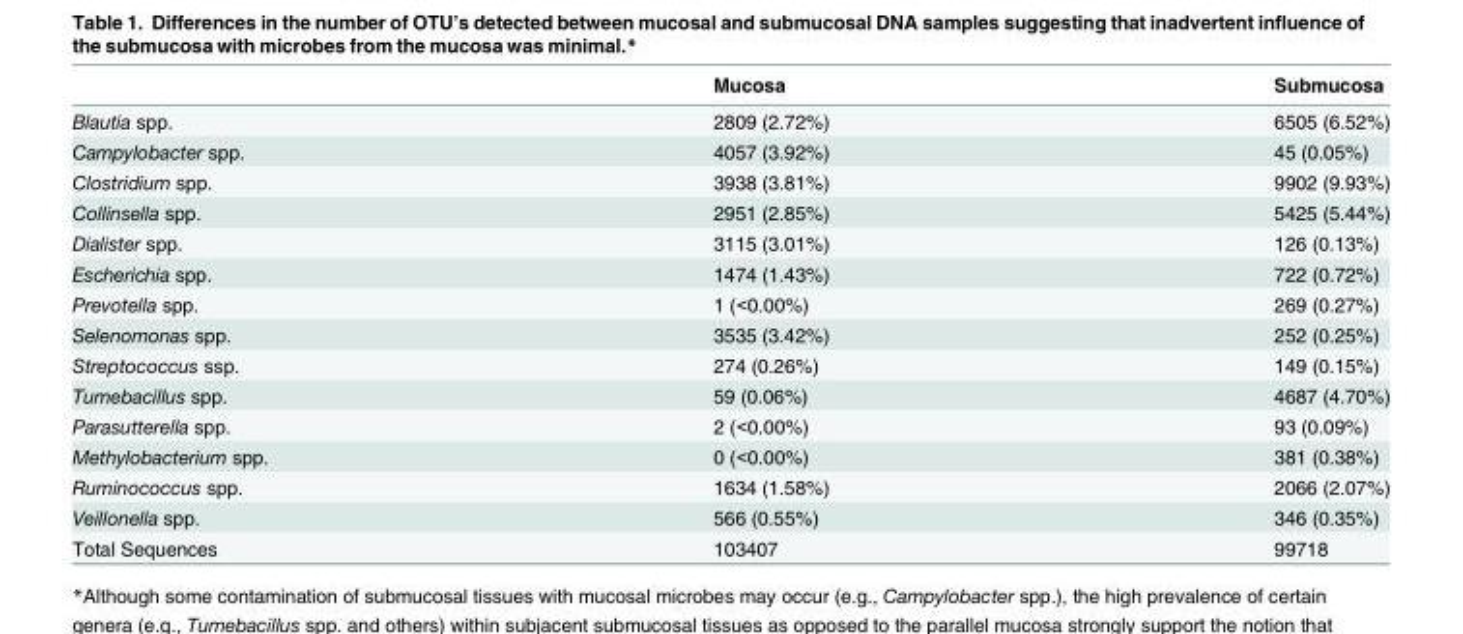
<table><thead><tr><td></td><td>Mucosa</td><td>Submucosa</td></tr></thead><tbody><tr><td>Blautia spp.</td><td>2809 (2.72%)</td><td>6505 (6.52%)</td></tr><tr><td>Campylobacter spp.</td><td>4057 (3.92%)</td><td>45 (0.05%)</td></tr><tr><td>Clostridium spp.</td><td>3938 (3.81%)</td><td>9902 (9.93%)</td></tr><tr><td>Collinsella spp.</td><td>2951 (2.85%)</td><td>5425 (5.44%)</td></tr><tr><td>Dialister spp.</td><td>3115 (3.01%)</td><td>126 (0.13%)</td></tr><tr><td>Escherichia spp.</td><td>1474 (1.43%)</td><td>722 (0.72%)</td></tr><tr><td>Prevotella spp.</td><td>1 (&lt;0.00%)</td><td>269 (0.27%)</td></tr><tr><td>Selenomonas spp.</td><td>3535 (3.42%)</td><td>252 (0.25%)</td></tr><tr><td>Streptococcus ssp.</td><td>274 (0.26%)</td><td>149 (0.15%)</td></tr><tr><td>Tumebacillus spp.</td><td>59 (0.06%)</td><td>4687 (4.70%)</td></tr><tr><td>Parasutterella spp.</td><td>2 (&lt;0.00%)</td><td>93 (0.09%)</td></tr><tr><td>Methylobacterium spp.</td><td>0 (&lt;0.00%)</td><td>381 (0.38%)</td></tr><tr><td>Ruminococcus spp.</td><td>1634 (1.58%)</td><td>2066 (2.07%)</td></tr><tr><td>Veillonella spp.</td><td>566 (0.55%)</td><td>346 (0.35%)</td></tr><tr><td>Total Sequences</td><td>103407</td><td>99718</td></tr></tbody></table>